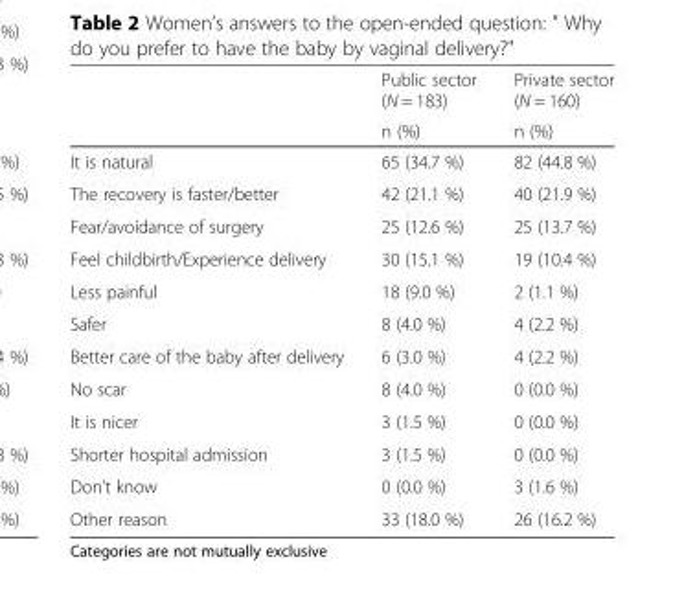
<table><thead><tr><td rowspan="2"></td><td rowspan="2">Public sector (N = 183) n (%)</td><td rowspan="2">Private sector (N = 160) n (%)</td></tr><tr></tr></thead><tbody><tr><td>It is natural</td><td>65 (34.7 %)</td><td>82 (44.8 %)</td></tr><tr><td>The recovery is faster/better</td><td>42 (21.1 %)</td><td>40 (21.9 %)</td></tr><tr><td>Fear/avoidance of surgery</td><td>25 (12.6 %)</td><td>25 (13.7 %)</td></tr><tr><td>Feel childbirth/Experience delivery</td><td>30 (15.1 %)</td><td>19 (10.4 %)</td></tr><tr><td>Less painful</td><td>18 (9.0 %)</td><td>2 (1.1 %)</td></tr><tr><td>Safer</td><td>8 (4.0 %)</td><td>4 (2.2 %)</td></tr><tr><td>Better care of the baby after delivery</td><td>6 (3.0 %)</td><td>4 (2.2 %)</td></tr><tr><td>No scar</td><td>8 (4.0 %)</td><td>0 (0.0 %)</td></tr><tr><td>It is nicer</td><td>3 (1.5 %)</td><td>0 (0.0 %)</td></tr><tr><td>Shorter hospital admission</td><td>3 (1.5 %)</td><td>0 (0.0 %)</td></tr><tr><td>Don’t know</td><td>0 (0.0 %)</td><td>3 (1.6 %)</td></tr><tr><td>Other reason</td><td>33 (18.0 %)</td><td>26 (16.2 %)</td></tr></tbody></table>